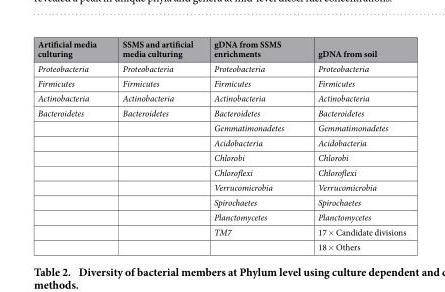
<table><thead><tr><td>Artificial media culturing</td><td>SSMS and artificial media culturing</td><td>gDNA from SSMS enrichments</td><td>gDNA from soil</td></tr></thead><tbody><tr><td>Proteobacteria</td><td>Proteobacteria</td><td>Proteobacteria</td><td>Proteobacteria</td></tr><tr><td>Firmicutes</td><td>Firmicutes</td><td>Firmicutes</td><td>Firmicutes</td></tr><tr><td>Actinobacteria</td><td>Actinobacteria</td><td>Actinobacteria</td><td>Actinobacteria</td></tr><tr><td rowspan="10">Bacteroidetes</td><td>Bacteroidetes</td><td>Bacteroidetes</td><td>Bacteroidetes</td></tr><tr><td></td><td>Gemmatimonadetes</td><td>Gemmatimonadetes</td></tr><tr><td></td><td>Acidobacteria</td><td>Acidobacteria</td></tr><tr><td></td><td>Chlorobi</td><td>Chlorobi</td></tr><tr><td></td><td>Chloroflexi</td><td>Chloroflexi</td></tr><tr><td></td><td>Verrucomicrobia</td><td>Verrucomicrobia</td></tr><tr><td></td><td>Spirochaetes</td><td>Spirochaetes</td></tr><tr><td></td><td>Planctomycetes</td><td>Planctomycetes</td></tr><tr><td></td><td>TM7</td><td>17 × Candidate divisions</td></tr><tr><td></td><td></td><td>18 × Others</td></tr></tbody></table>